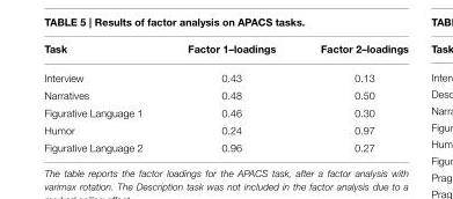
<table><thead><tr><td>Task</td><td>Factor 1–loadings</td><td>Factor 2–loadings</td></tr></thead><tbody><tr><td>Interview</td><td>0.43</td><td>0.13</td></tr><tr><td>Narratives</td><td>0.48</td><td>0.50</td></tr><tr><td>Figurative Language 1</td><td>0.46</td><td>0.30</td></tr><tr><td>Humor</td><td>0.24</td><td>0.97</td></tr><tr><td>Figurative Language 2</td><td>0.96</td><td>0.27</td></tr></tbody></table>